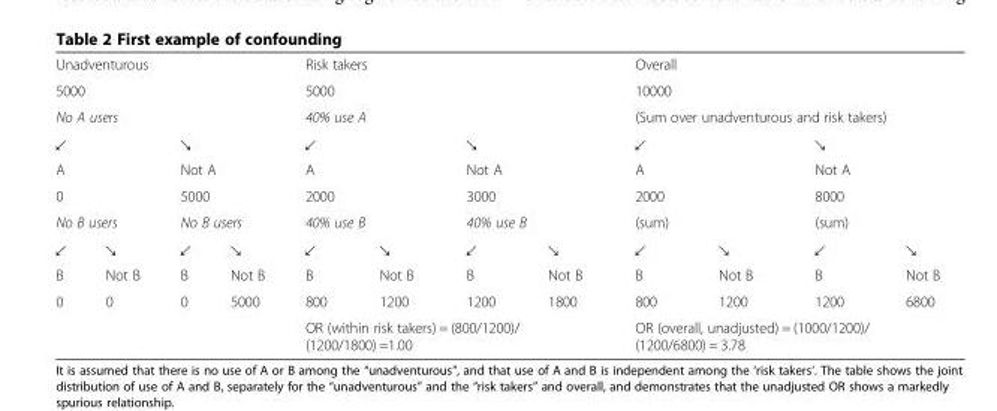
<table><tbody><tr><td colspan="4">Unadventurous</td><td colspan="4">Risk takers</td><td colspan="4">Overall</td></tr><tr><td colspan="4">5000</td><td colspan="4">5000</td><td colspan="4">10000</td></tr><tr><td colspan="4">No A users</td><td colspan="4">40% use A</td><td colspan="4">(Sum over unadventurous and risk takers)</td></tr><tr><td colspan="2">↙</td><td colspan="2">↘</td><td colspan="2">↙</td><td colspan="2">↘</td><td colspan="2">↙</td><td colspan="2">↘</td></tr><tr><td colspan="2">A</td><td colspan="2">Not A</td><td colspan="2">A</td><td colspan="2">Not A</td><td colspan="2">A</td><td colspan="2">Not A</td></tr><tr><td colspan="2">0</td><td colspan="2">5000</td><td colspan="2">2000</td><td colspan="2">3000</td><td colspan="2">2000</td><td colspan="2">8000</td></tr><tr><td colspan="2">No B users</td><td colspan="2">No B users</td><td colspan="2">40% use B</td><td colspan="2">40% use B</td><td colspan="2">(sum)</td><td colspan="2">(sum)</td></tr><tr><td>↙</td><td>↘</td><td>↙</td><td>↘</td><td>↙</td><td>↘</td><td>↙</td><td>↘</td><td>↙</td><td>↘</td><td>↙</td><td>↘</td></tr><tr><td>B</td><td>Not B</td><td>B</td><td>Not B</td><td>B</td><td>Not B</td><td>B</td><td>Not B</td><td>B</td><td>Not B</td><td>B</td><td>Not B</td></tr><tr><td>0</td><td>0</td><td>0</td><td>5000</td><td>800</td><td>1200</td><td>1200</td><td>1800</td><td>800</td><td>1200</td><td>1200</td><td>6800</td></tr><tr><td colspan="4"></td><td colspan="4">OR (within risk takers) = (800/1200)/ (1200/1800) =1.00</td><td colspan="4">OR (overall, unadjusted) = (1000/1200)/ (1200/6800) = 3.78</td></tr></tbody></table>